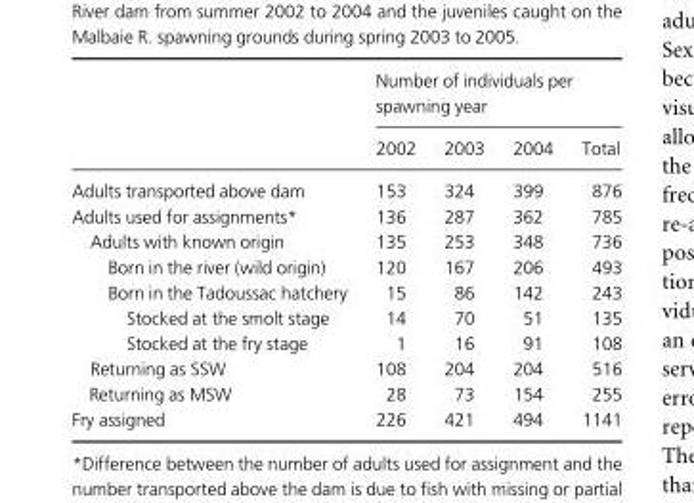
<table><thead><tr><td rowspan="2"></td><td colspan="4">Number of individuals per spawning year</td></tr><tr><td>2002</td><td>2003</td><td>2004</td><td>Total</td></tr></thead><tbody><tr><td>Adults transported above dam</td><td>153</td><td>324</td><td>399</td><td>876</td></tr><tr><td>Adults used for assignments*</td><td>136</td><td>287</td><td>362</td><td>785</td></tr><tr><td>Adults with known origin</td><td>135</td><td>253</td><td>348</td><td>736</td></tr><tr><td>Born in the river (wild origin)</td><td>120</td><td>167</td><td>206</td><td>493</td></tr><tr><td>Born in the Tadoussac hatchery</td><td>15</td><td>86</td><td>142</td><td>243</td></tr><tr><td>Stocked at the smolt stage</td><td>14</td><td>70</td><td>51</td><td>135</td></tr><tr><td>Stocked at the fry stage</td><td>1</td><td>16</td><td>91</td><td>108</td></tr><tr><td>Returning as SSW</td><td>108</td><td>204</td><td>204</td><td>516</td></tr><tr><td>Returning as MSW</td><td>28</td><td>73</td><td>154</td><td>255</td></tr><tr><td>Fry assigned</td><td>226</td><td>421</td><td>494</td><td>1141</td></tr></tbody></table>